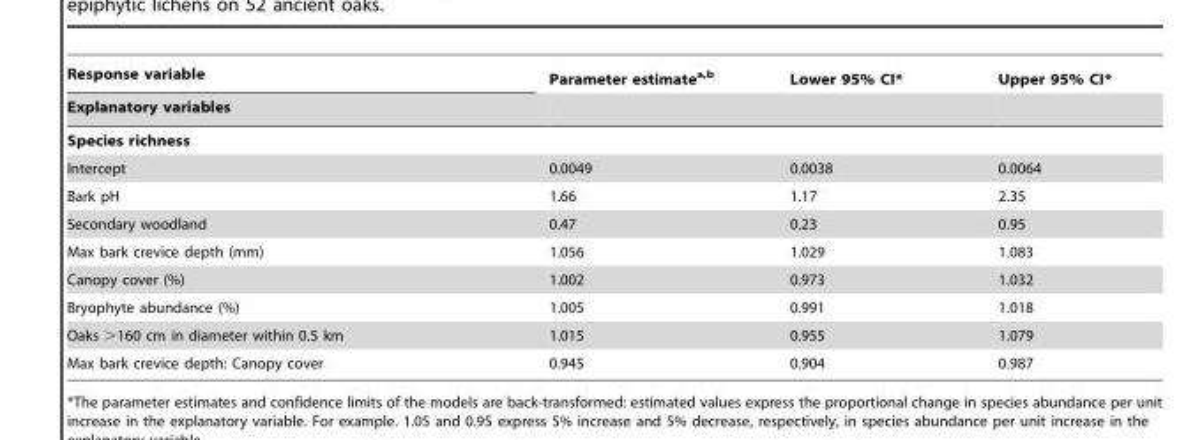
<table><thead><tr><td rowspan="2">Response variable Explanatory variables</td><td rowspan="2">Parameter estimate<sup>a,b</sup></td><td rowspan="2">Lower 95% CI*</td><td rowspan="2">Upper 95% CI*</td></tr><tr></tr></thead><tbody><tr><td colspan="4">Species richness</td></tr><tr><td>Intercept</td><td>0.0049</td><td>0.0038</td><td>0.0064</td></tr><tr><td>Bark pH</td><td>1.66</td><td>1.17</td><td>2.35</td></tr><tr><td>Secondary woodland</td><td>0.47</td><td>0.23</td><td>0.95</td></tr><tr><td>Max bark crevice depth (mm)</td><td>1.056</td><td>1.029</td><td>1.083</td></tr><tr><td>Canopy cover (%)</td><td>1.002</td><td>0.973</td><td>1.032</td></tr><tr><td>Bryophyte abundance (%)</td><td>1.005</td><td>0.991</td><td>1.018</td></tr><tr><td>Oaks &gt;160 cm in diameter within 0.5 km</td><td>1.015</td><td>0.955</td><td>1.079</td></tr><tr><td>Max bark crevice depth: Canopy cover</td><td>0.945</td><td>0.904</td><td>0.987</td></tr></tbody></table>